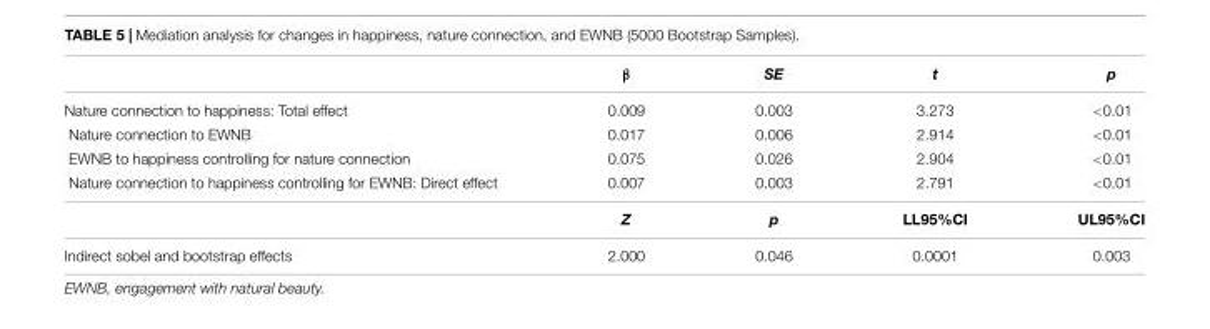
<table><thead><tr><td></td><td>β</td><td>SE</td><td>t</td><td>p</td></tr></thead><tbody><tr><td>Nature connection to happiness: Total effect</td><td>0.009</td><td>0.003</td><td>3.273</td><td>&lt;0.01</td></tr><tr><td>Nature connection to EWNB</td><td>0.017</td><td>0.006</td><td>2.914</td><td>&lt;0.01</td></tr><tr><td>EWNB to happiness controlling for nature connection</td><td>0.075</td><td>0.026</td><td>2.904</td><td>&lt;0.01</td></tr><tr><td rowspan="2">Nature connection to happiness controlling for EWNB: Direct effect</td><td>0.007</td><td>0.003</td><td>2.791</td><td>&lt;0.01</td></tr><tr><td>Z</td><td>p</td><td>LL95%CI</td><td>UL95%CI</td></tr><tr><td>Indirect sobel and bootstrap effects</td><td>2.000</td><td>0.046</td><td>0.0001</td><td>0.003</td></tr></tbody></table>